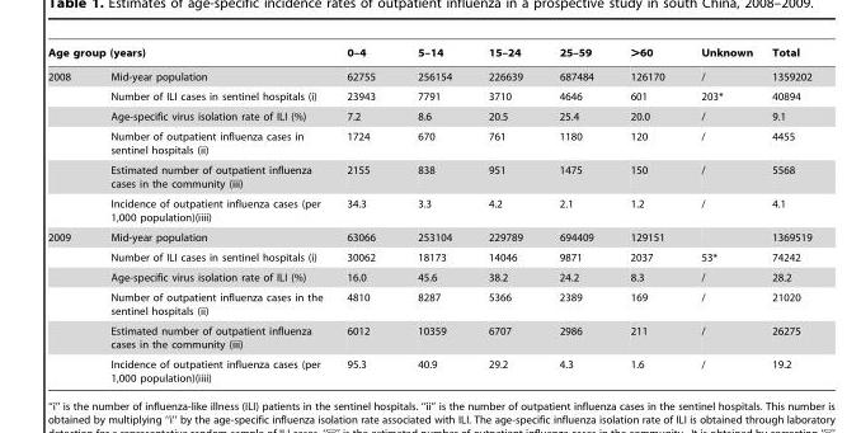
<table><thead><tr><td colspan="2">Age group (years)</td><td rowspan="2">0–4 62755</td><td rowspan="2">5–14 256154</td><td rowspan="2">15–24 226639</td><td rowspan="2">25–59 687484</td><td rowspan="2">&gt;60 126170</td><td rowspan="2">Unknown /</td><td rowspan="2">Total 1359202</td></tr><tr><td>2008</td><td>Mid-year population</td></tr></thead><tbody><tr><td></td><td>Number of ILI cases in sentinel hospitals (i)</td><td>23943</td><td>7791</td><td>3710</td><td>4646</td><td>601</td><td>203*</td><td>40894</td></tr><tr><td></td><td>Age-specific virus isolation rate of ILI (%)</td><td>7.2</td><td>8.6</td><td>20.5</td><td>25.4</td><td>20.0</td><td>/</td><td>9.1</td></tr><tr><td></td><td>Number of outpatient influenza cases in sentinel hospitals (ii)</td><td>1724</td><td>670</td><td>761</td><td>1180</td><td>120</td><td>/</td><td>4455</td></tr><tr><td></td><td>Estimated number of outpatient influenza cases in the community (iii)</td><td>2155</td><td>838</td><td>951</td><td>1475</td><td>150</td><td>/</td><td>5568</td></tr><tr><td></td><td>Incidence of outpatient influenza cases (per 1,000 population)(iiii)</td><td>34.3</td><td>3.3</td><td>4.2</td><td>2.1</td><td>1.2</td><td>/</td><td>4.1</td></tr><tr><td rowspan="6">2009</td><td>Mid-year population</td><td>63066</td><td>253104</td><td>229789</td><td>694409</td><td>129151</td><td></td><td>1369519</td></tr><tr><td>Number of ILI cases in sentinel hospitals (i)</td><td>30062</td><td>18173</td><td>14046</td><td>9871</td><td>2037</td><td>53*</td><td>74242</td></tr><tr><td>Age-specific virus isolation rate of ILI (%)</td><td>16.0</td><td>45.6</td><td>38.2</td><td>24.2</td><td>8.3</td><td>/</td><td>28.2</td></tr><tr><td>Number of outpatient influenza cases in the sentinel hospitals (ii)</td><td>4810</td><td>8287</td><td>5366</td><td>2389</td><td>169</td><td>/</td><td>21020</td></tr><tr><td>Estimated number of outpatient influenza cases in the community (iii)</td><td>6012</td><td>10359</td><td>6707</td><td>2986</td><td>211</td><td>/</td><td>26275</td></tr><tr><td>Incidence of outpatient influenza cases (per 1,000 population)(iiii)</td><td>95.3</td><td>40.9</td><td>29.2</td><td>4.3</td><td>1.6</td><td>/</td><td>19.2</td></tr></tbody></table>